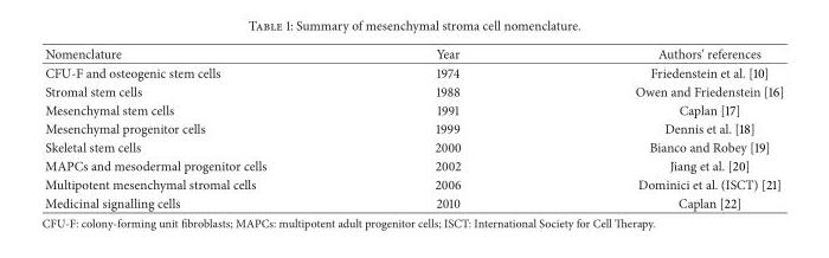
<table><thead><tr><td>Nomenclature</td><td>Year</td><td>Authors’ references</td></tr></thead><tbody><tr><td>CFU-F and osteogenic stem cells</td><td>1974</td><td>Friedenstein et al. [10]</td></tr><tr><td>Stromal stem cells</td><td>1988</td><td>Owen and Friedenstein [16]</td></tr><tr><td>Mesenchymal stem cells</td><td>1991</td><td>Caplan [17]</td></tr><tr><td>Mesenchymal progenitor cells</td><td>1999</td><td>Dennis et al. [18]</td></tr><tr><td>Skeletal stem cells</td><td>2000</td><td>Bianco and Robey [19]</td></tr><tr><td>MAPCs and mesodermal progenitor cells</td><td>2002</td><td>Jiang et al. [20]</td></tr><tr><td>Multipotent mesenchymal stromal cells</td><td>2006</td><td>Dominici et al. (ISCT) [21]</td></tr><tr><td>Medicinal signalling cells</td><td>2010</td><td>Caplan [22]</td></tr></tbody></table>